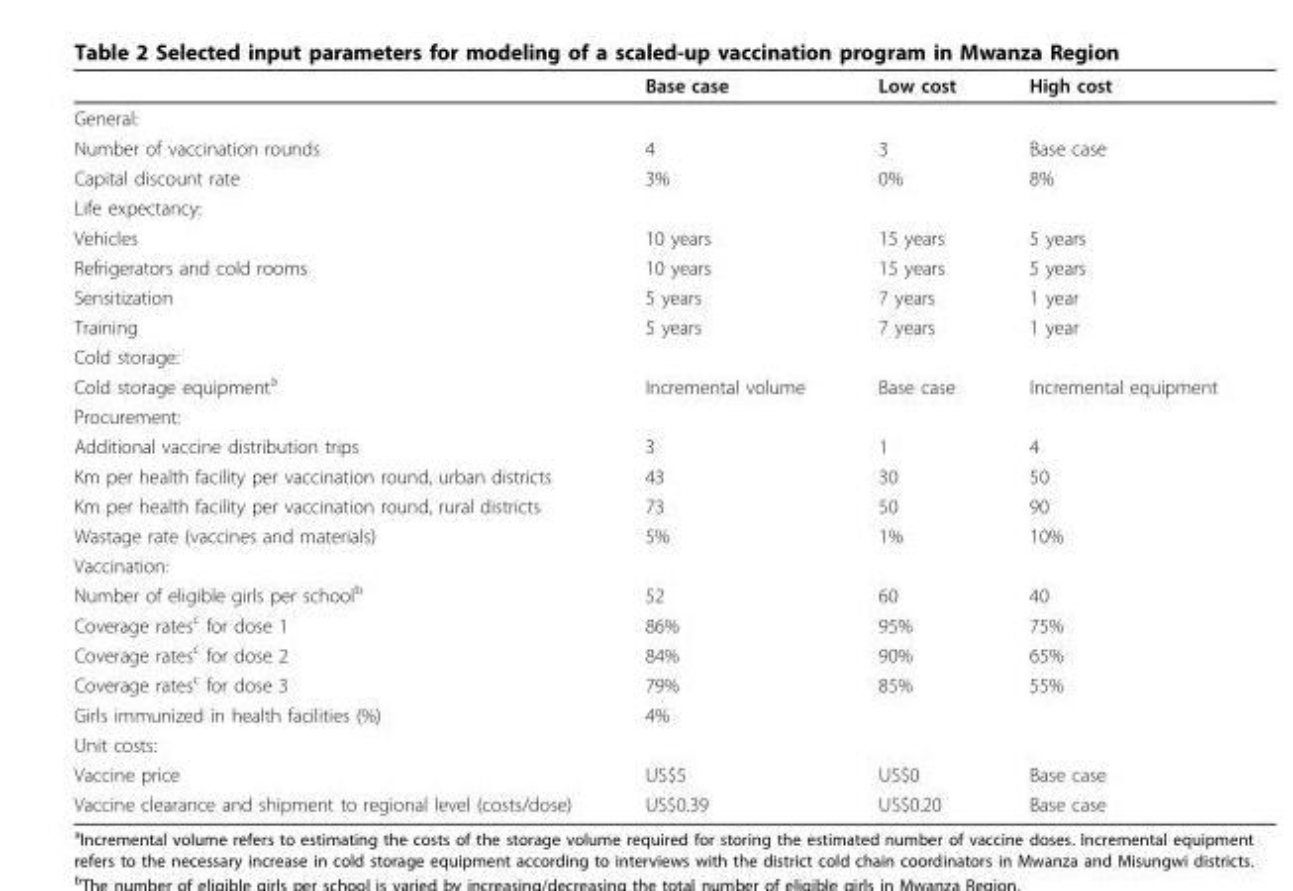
<table><thead><tr><td></td><td>Base case</td><td>Low cost</td><td>High cost</td></tr></thead><tbody><tr><td colspan="4">General:</td></tr><tr><td>Number of vaccination rounds</td><td>4</td><td>3</td><td>Base case</td></tr><tr><td>Capital discount rate</td><td>3%</td><td>0%</td><td>8%</td></tr><tr><td colspan="4">Life expectancy:</td></tr><tr><td>Vehicles</td><td>10 years</td><td>15 years</td><td>5 years</td></tr><tr><td>Refrigerators and cold rooms</td><td>10 years</td><td>15 years</td><td>5 years</td></tr><tr><td>Sensitization</td><td>5 years</td><td>7 years</td><td>1 year</td></tr><tr><td>Training</td><td>5 years</td><td>7 years</td><td>1 year</td></tr><tr><td colspan="4">Cold storage:</td></tr><tr><td>Cold storage equipment<sup>a</sup></td><td>Incremental volume</td><td>Base case</td><td>Incremental equipment</td></tr><tr><td colspan="4">Procurement:</td></tr><tr><td>Additional vaccine distribution trips</td><td>3</td><td>1</td><td>4</td></tr><tr><td>Km per health facility per vaccination round, urban districts</td><td>43</td><td>30</td><td>50</td></tr><tr><td>Km per health facility per vaccination round, rural districts</td><td>73</td><td>50</td><td>90</td></tr><tr><td>Wastage rate (vaccines and materials)</td><td>5%</td><td>1%</td><td>10%</td></tr><tr><td colspan="4">Vaccination:</td></tr><tr><td>Number of eligible girls per school<sup>b</sup></td><td>52</td><td>60</td><td>40</td></tr><tr><td>Coverage rates<sup>c</sup> for dose 1</td><td>86%</td><td>95%</td><td>75%</td></tr><tr><td>Coverage rates<sup>c</sup> for dose 2</td><td>84%</td><td>90%</td><td>65%</td></tr><tr><td>Coverage rates<sup>c</sup> for dose 3</td><td>79%</td><td>85%</td><td>55%</td></tr><tr><td>Girls immunized in health facilities (%)</td><td>4%</td><td></td><td></td></tr><tr><td colspan="4">Unit costs:</td></tr><tr><td>Vaccine price</td><td>US$5</td><td>US$0</td><td>Base case</td></tr><tr><td>Vaccine clearance and shipment to regional level (costs/dose)</td><td>US$0.39</td><td>US$0.20</td><td>Base case</td></tr></tbody></table>